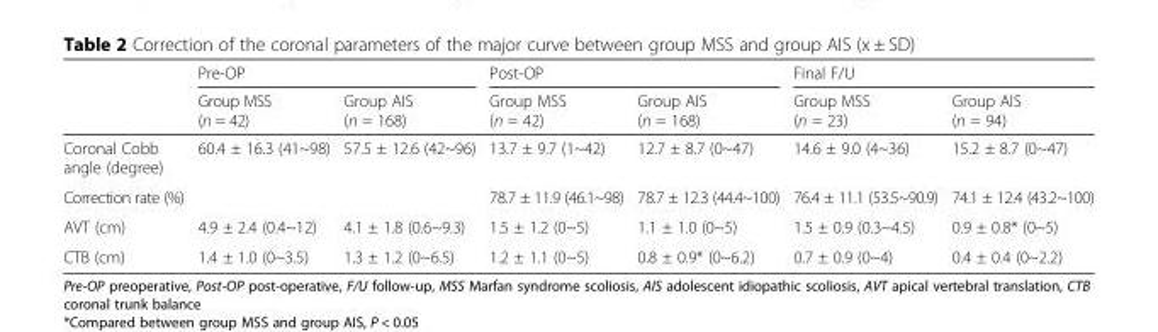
<table><thead><tr><td rowspan="2"></td><td colspan="2">Pre-OP</td><td colspan="2">Post-OP</td><td colspan="2">Final F/U</td></tr><tr><td>Group MSS (n = 42)</td><td>Group AIS (n = 168)</td><td>Group MSS (n = 42)</td><td>Group AIS (n = 168)</td><td>Group MSS (n = 23)</td><td>Group AIS (n = 94)</td></tr></thead><tbody><tr><td>Coronal Cobb angle (degree)</td><td>60.4 ± 16.3 (41~98)</td><td>57.5 ± 12.6 (42~96)</td><td>13.7 ± 9.7 (1~42)</td><td>12.7 ± 8.7 (0~47)</td><td>14.6 ± 9.0 (4~36)</td><td>15.2 ± 8.7 (0~47)</td></tr><tr><td>Correction rate (%)</td><td></td><td></td><td>78.7 ± 11.9 (46.1~98)</td><td>78.7 ± 12.3 (44.4~100)</td><td>76.4 ± 11.1 (53.5~90.9)</td><td>74.1 ± 12.4 (43.2~100)</td></tr><tr><td>AVT (cm)</td><td>4.9 ± 2.4 (0.4~12)</td><td>4.1 ± 1.8 (0.6~9.3)</td><td>1.5 ± 1.2 (0~5)</td><td>1.1 ± 1.0 (0~5)</td><td>1.5 ± 0.9 (0.3~4.5)</td><td>0.9 ± 0.8* (0~5)</td></tr><tr><td>CTB (cm)</td><td>1.4 ± 1.0 (0~3.5)</td><td>1.3 ± 1.2 (0~6.5)</td><td>1.2 ± 1.1 (0~5)</td><td>0.8 ± 0.9* (0~6.2)</td><td>0.7 ± 0.9 (0~4)</td><td>0.4 ± 0.4 (0~2.2)</td></tr></tbody></table>